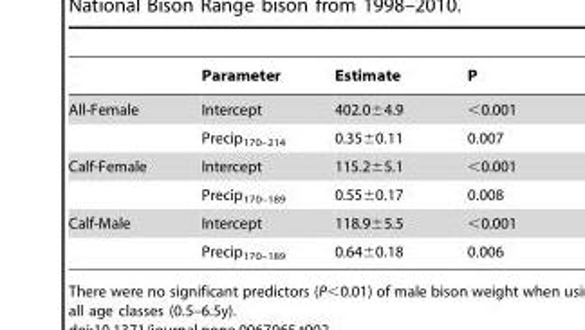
<table><thead><tr><td></td><td>Parameter</td><td>Estimate</td><td>P</td></tr></thead><tbody><tr><td rowspan="2">All-Female</td><td>Intercept</td><td>402.0±4.9</td><td>&lt;0.001</td></tr><tr><td>Precip<sub>170–214</sub></td><td>0.35±0.11</td><td>0.007</td></tr><tr><td rowspan="2">Calf-Female</td><td>Intercept</td><td>115.2±5.1</td><td>&lt;0.001</td></tr><tr><td>Precip<sub>170–189</sub></td><td>0.55±0.17</td><td>0.008</td></tr><tr><td rowspan="2">Calf-Male</td><td>Intercept</td><td>118.9±5.5</td><td>&lt;0.001</td></tr><tr><td>Precip<sub>170–189</sub></td><td>0.64±0.18</td><td>0.006</td></tr></tbody></table>